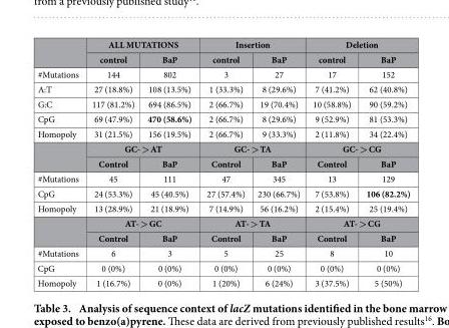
<table><thead><tr><td rowspan="2"></td><td colspan="2">ALL MUTATIONS</td><td colspan="2">Insertion</td><td colspan="2">Deletion</td></tr><tr><td>control</td><td>BaP</td><td>control</td><td>BaP</td><td>control</td><td>BaP</td></tr></thead><tbody><tr><td>#Mutations</td><td>144</td><td>802</td><td>3</td><td>27</td><td>17</td><td>152</td></tr><tr><td>A:T</td><td>27 (18.8%)</td><td>108 (13.5%)</td><td>1 (33.3%)</td><td>8 (29.6%)</td><td>7 (41.2%)</td><td>62 (40.8%)</td></tr><tr><td>G:C</td><td>117 (81.2%)</td><td>694 (86.5%)</td><td>2 (66.7%)</td><td>19 (70.4%)</td><td>10 (58.8%)</td><td>90 (59.2%)</td></tr><tr><td>CpG</td><td>69 (47.9%)</td><td>470 (58.6%)</td><td>2 (66.7%)</td><td>8 (29.6%)</td><td>9 (52.9%)</td><td>81 (53.3%)</td></tr><tr><td rowspan="3">Homopoly</td><td>31 (21.5%)</td><td>156 (19.5%)</td><td>2 (66.7%)</td><td>9 (33.3%)</td><td>2 (11.8%)</td><td>34 (22.4%)</td></tr><tr><td colspan="2">GC- &gt; AT</td><td colspan="2">GC- &gt; TA</td><td colspan="2">GC- &gt; CG</td></tr><tr><td>Control</td><td>BaP</td><td>Control</td><td>BaP</td><td>Control</td><td>BaP</td></tr><tr><td>#Mutations</td><td>45</td><td>111</td><td>47</td><td>345</td><td>13</td><td>129</td></tr><tr><td>CpG</td><td>24 (53.3%)</td><td>45 (40.5%)</td><td>27 (57.4%)</td><td>230 (66.7%)</td><td>7 (53.8%)</td><td>106 (82.2%)</td></tr><tr><td rowspan="3">Homopoly</td><td>13 (28.9%)</td><td>21 (18.9%)</td><td>7 (14.9%)</td><td>56 (16.2%)</td><td>2 (15.4%)</td><td>25 (19.4%)</td></tr><tr><td colspan="2">AT- &gt; GC</td><td colspan="2">AT- &gt; TA</td><td colspan="2">AT- &gt; CG</td></tr><tr><td>Control</td><td>BaP</td><td>Control</td><td>BaP</td><td>Control</td><td>BaP</td></tr><tr><td>#Mutations</td><td>6</td><td>3</td><td>5</td><td>25</td><td>8</td><td>10</td></tr><tr><td>CpG</td><td>0 (0%)</td><td>0 (0%)</td><td>0 (0%)</td><td>0 (0%)</td><td>0 (0%)</td><td>0 (0%)</td></tr><tr><td>Homopoly</td><td>1 (16.7%)</td><td>0 (0%)</td><td>1 (20%)</td><td>6 (24%)</td><td>3 (37.5%)</td><td>5 (50%)</td></tr></tbody></table>